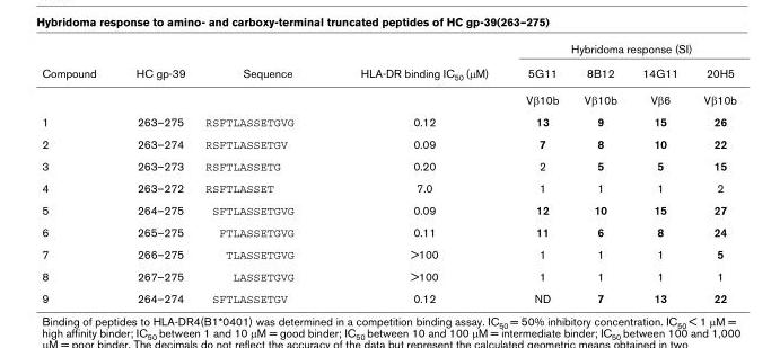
<table><thead><tr><td rowspan="2">Compound</td><td rowspan="2">HC gp-39</td><td rowspan="2">Sequence</td><td rowspan="2">HLA-DR binding IC<sub>50</sub> (μM)</td><td colspan="4">Hybridoma response (SI)</td></tr><tr><td>5G11</td><td>8B12</td><td>14G11</td><td>20H5</td></tr></thead><tbody><tr><td></td><td></td><td></td><td></td><td>Vβ10b</td><td>Vβ10b</td><td>Vβ6</td><td>Vβ10b</td></tr><tr><td>1</td><td>263–275</td><td>RSFTLASSETGVG</td><td>0.12</td><td>13</td><td>9</td><td>15</td><td>26</td></tr><tr><td>2</td><td>263–274</td><td>RSFTLASSETGV</td><td>0.09</td><td>7</td><td>8</td><td>10</td><td>22</td></tr><tr><td>3</td><td>263–273</td><td>RSFTLASSETG</td><td>0.20</td><td>2</td><td>5</td><td>5</td><td>15</td></tr><tr><td>4</td><td>263–272</td><td>RSFTLASSET</td><td>7.0</td><td>1</td><td>1</td><td>1</td><td>2</td></tr><tr><td>5</td><td>264–275</td><td>SFTLASSETGVG</td><td>0.09</td><td>12</td><td>10</td><td>15</td><td>27</td></tr><tr><td>6</td><td>265–275</td><td>FTLASSETGVG</td><td>0.11</td><td>11</td><td>6</td><td>8</td><td>24</td></tr><tr><td>7</td><td>266–275</td><td>TLASSETGVG</td><td>&gt;100</td><td>1</td><td>1</td><td>1</td><td>5</td></tr><tr><td>8</td><td>267–275</td><td>LASSETGVG</td><td>&gt;100</td><td>1</td><td>1</td><td>1</td><td>1</td></tr><tr><td>9</td><td>264–274</td><td>SFTLASSETGV</td><td>0.12</td><td>ND</td><td>7</td><td>13</td><td>22</td></tr></tbody></table>